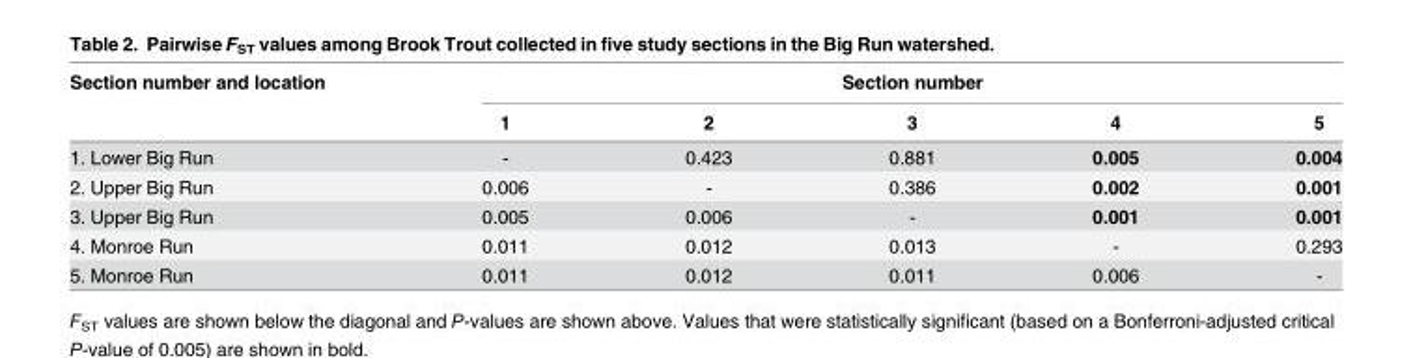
<table><thead><tr><td rowspan="2">Section number and location</td><td colspan="5">Section number</td></tr><tr><td>1</td><td>2</td><td>3</td><td>4</td><td>5</td></tr></thead><tbody><tr><td>1. Lower Big Run</td><td>-</td><td>0.423</td><td>0.881</td><td>0.005</td><td>0.004</td></tr><tr><td>2. Upper Big Run</td><td>0.006</td><td>-</td><td>0.386</td><td>0.002</td><td>0.001</td></tr><tr><td>3. Upper Big Run</td><td>0.005</td><td>0.006</td><td>-</td><td>0.001</td><td>0.001</td></tr><tr><td>4. Monroe Run</td><td>0.011</td><td>0.012</td><td>0.013</td><td>-</td><td>0.293</td></tr><tr><td>5. Monroe Run</td><td>0.011</td><td>0.012</td><td>0.011</td><td>0.006</td><td>-</td></tr></tbody></table>